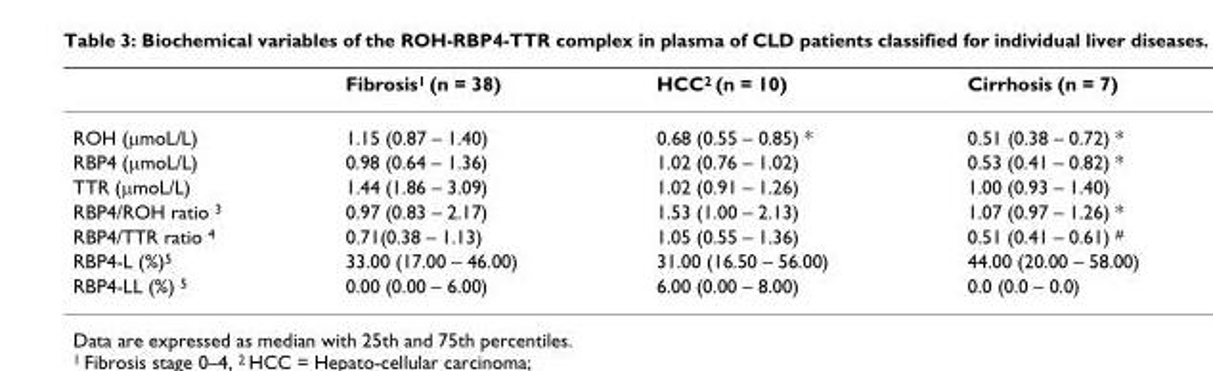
<table><thead><tr><td></td><td>Fibrosis<sup>1</sup> (n = 38)</td><td>HCC<sup>2</sup> (n = 10)</td><td>Cirrhosis (n = 7)</td></tr></thead><tbody><tr><td>ROH (μmoL/L)</td><td>1.15 (0.87 – 1.40)</td><td>0.68 (0.55 – 0.85) *</td><td>0.51 (0.38 – 0.72) *</td></tr><tr><td>RBP4 (μmoL/L)</td><td>0.98 (0.64 – 1.36)</td><td>1.02 (0.76 – 1.02)</td><td>0.53 (0.41 – 0.82) *</td></tr><tr><td>TTR (μmoL/L)</td><td>1.44 (1.86 – 3.09)</td><td>1.02 (0.91 – 1.26)</td><td>1.00 (0.93 – 1.40)</td></tr><tr><td>RBP4/ROH ratio <sup>3</sup></td><td>0.97 (0.83 – 2.17)</td><td>1.53 (1.00 – 2.13)</td><td>1.07 (0.97 – 1.26) *</td></tr><tr><td>RBP4/TTR ratio <sup>4</sup></td><td>0.71(0.38 – 1.13)</td><td>1.05 (0.55 – 1.36)</td><td>0.51 (0.41 – 0.61) <sup>#</sup></td></tr><tr><td>RBP4-L (%)<sup>5</sup></td><td>33.00 (17.00 – 46.00)</td><td>31.00 (16.50 – 56.00)</td><td>44.00 (20.00 – 58.00)</td></tr><tr><td>RBP4-LL (%) <sup>5</sup></td><td>0.00 (0.00 – 6.00)</td><td>6.00 (0.00 – 8.00)</td><td>0.0 (0.0 – 0.0)</td></tr></tbody></table>